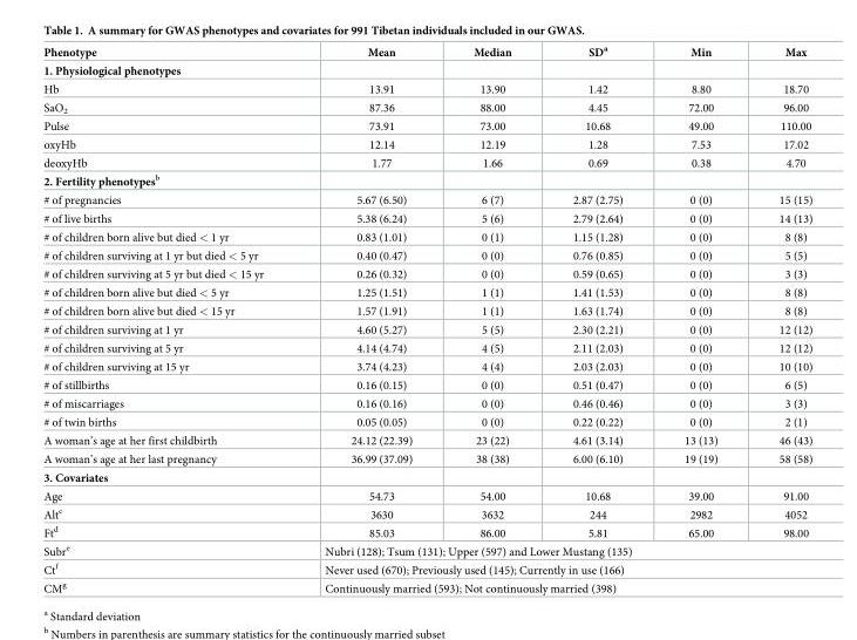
<table><thead><tr><td>Phenotype</td><td>Mean</td><td>Median</td><td>SD<sup>a</sup></td><td>Min</td><td>Max</td></tr></thead><tbody><tr><td colspan="6">1. Physiological phenotypes</td></tr><tr><td>Hb</td><td>13.91</td><td>13.90</td><td>1.42</td><td>8.80</td><td>18.70</td></tr><tr><td>SaO<sub>2</sub></td><td>87.36</td><td>88.00</td><td>4.45</td><td>72.00</td><td>96.00</td></tr><tr><td>Pulse</td><td>73.91</td><td>73.00</td><td>10.68</td><td>49.00</td><td>110.00</td></tr><tr><td>oxyHb</td><td>12.14</td><td>12.19</td><td>1.28</td><td>7.53</td><td>17.02</td></tr><tr><td>deoxyHb</td><td>1.77</td><td>1.66</td><td>0.69</td><td>0.38</td><td>4.70</td></tr><tr><td colspan="6">2. Fertility phenotypes<sup>b</sup></td></tr><tr><td># of pregnancies</td><td>5.67 (6.50)</td><td>6 (7)</td><td>2.87 (2.75)</td><td>0 (0)</td><td>15 (15)</td></tr><tr><td># of live births</td><td>5.38 (6.24)</td><td>5 (6)</td><td>2.79 (2.64)</td><td>0 (0)</td><td>14 (13)</td></tr><tr><td># of children born alive but died &lt; 1 yr</td><td>0.83 (1.01)</td><td>0 (1)</td><td>1.15 (1.28)</td><td>0 (0)</td><td>8 (8)</td></tr><tr><td># of children surviving at 1 yr but died &lt; 5 yr</td><td>0.40 (0.47)</td><td>0 (0)</td><td>0.76 (0.85)</td><td>0 (0)</td><td>5 (5)</td></tr><tr><td># of children surviving at 5 yr but died &lt; 15 yr</td><td>0.26 (0.32)</td><td>0 (0)</td><td>0.59 (0.65)</td><td>0 (0)</td><td>3 (3)</td></tr><tr><td># of children born alive but died &lt; 5 yr</td><td>1.25 (1.51)</td><td>1 (1)</td><td>1.41 (1.53)</td><td>0 (0)</td><td>8 (8)</td></tr><tr><td># of children born alive but died &lt; 15 yr</td><td>1.57 (1.91)</td><td>1 (1)</td><td>1.63 (1.74)</td><td>0 (0)</td><td>8 (8)</td></tr><tr><td># of children surviving at 1 yr</td><td>4.60 (5.27)</td><td>5 (5)</td><td>2.30 (2.21)</td><td>0 (0)</td><td>12 (12)</td></tr><tr><td># of children surviving at 5 yr</td><td>4.14 (4.74)</td><td>4 (5)</td><td>2.11 (2.03)</td><td>0 (0)</td><td>12 (12)</td></tr><tr><td># of children surviving at 15 yr</td><td>3.74 (4.23)</td><td>4 (4)</td><td>2.03 (2.03)</td><td>0 (0)</td><td>10 (10)</td></tr><tr><td># of stillbirths</td><td>0.16 (0.15)</td><td>0 (0)</td><td>0.51 (0.47)</td><td>0 (0)</td><td>6 (5)</td></tr><tr><td># of miscarriages</td><td>0.16 (0.16)</td><td>0 (0)</td><td>0.46 (0.46)</td><td>0 (0)</td><td>3 (3)</td></tr><tr><td># of twin births</td><td>0.05 (0.05)</td><td>0 (0)</td><td>0.22 (0.22)</td><td>0 (0)</td><td>2 (1)</td></tr><tr><td>A woman’s age at her first childbirth</td><td>24.12 (22.39)</td><td>23 (22)</td><td>4.61 (3.14)</td><td>13 (13)</td><td>46 (43)</td></tr><tr><td>A woman’s age at her last pregnancy</td><td>36.99 (37.09)</td><td>38 (38)</td><td>6.00 (6.10)</td><td>19 (19)</td><td>58 (58)</td></tr><tr><td colspan="6">3. Covariates</td></tr><tr><td>Age</td><td>54.73</td><td>54.00</td><td>10.68</td><td>39.00</td><td>91.00</td></tr><tr><td>Alt<sup>c</sup></td><td>3630</td><td>3632</td><td>244</td><td>2982</td><td>4052</td></tr><tr><td>Ft<sup>d</sup></td><td>85.03</td><td>86.00</td><td>5.81</td><td>65.00</td><td>98.00</td></tr><tr><td>Subr<sup>e</sup></td><td colspan="5">Nubri (128); Tsum (131); Upper (597) and Lower Mustang (135)</td></tr><tr><td>Ct<sup>f</sup></td><td colspan="5">Never used (670); Previously used (145); Currently in use (166)</td></tr><tr><td>CM<sup>g</sup></td><td colspan="5">Continuously married (593); Not continuously married (398)</td></tr></tbody></table>